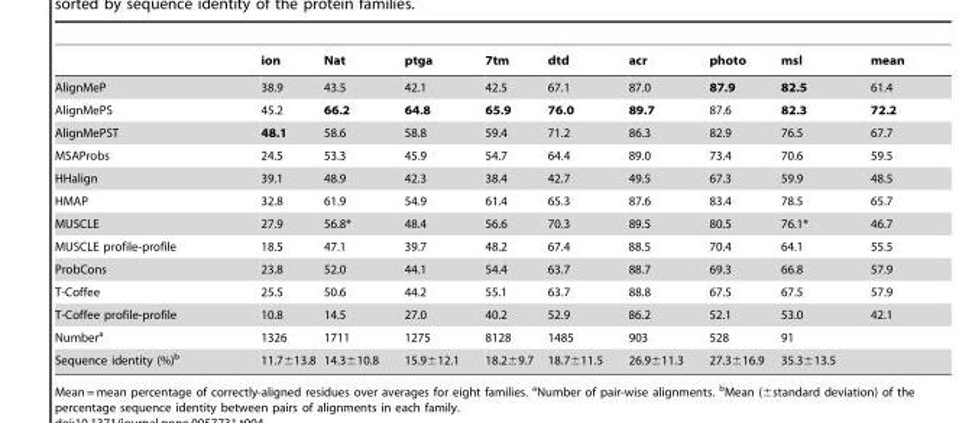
<table><thead><tr><td></td><td>ion</td><td>Nat</td><td>ptga</td><td>7tm</td><td>dtd</td><td>acr</td><td>photo</td><td>msl</td><td>mean</td></tr></thead><tbody><tr><td>AlignMeP</td><td>38.9</td><td>43.5</td><td>42.1</td><td>42.5</td><td>67.1</td><td>87.0</td><td>87.9</td><td>82.5</td><td>61.4</td></tr><tr><td>AlignMePS</td><td>45.2</td><td>66.2</td><td>64.8</td><td>65.9</td><td>76.0</td><td>89.7</td><td>87.6</td><td>82.3</td><td>72.2</td></tr><tr><td>AlignMePST</td><td>48.1</td><td>58.6</td><td>58.8</td><td>59.4</td><td>71.2</td><td>86.3</td><td>82.9</td><td>76.5</td><td>67.7</td></tr><tr><td>MSAProbs</td><td>24.5</td><td>53.3</td><td>45.9</td><td>54.7</td><td>64.4</td><td>89.0</td><td>73.4</td><td>70.6</td><td>59.5</td></tr><tr><td>HHalign</td><td>39.1</td><td>48.9</td><td>42.3</td><td>38.4</td><td>42.7</td><td>49.5</td><td>67.3</td><td>59.9</td><td>48.5</td></tr><tr><td>HMAP</td><td>32.8</td><td>61.9</td><td>54.9</td><td>61.4</td><td>65.3</td><td>87.6</td><td>83.4</td><td>78.5</td><td>65.7</td></tr><tr><td>MUSCLE</td><td>27.9</td><td>56.8*</td><td>48.4</td><td>56.6</td><td>70.3</td><td>89.5</td><td>80.5</td><td>76.1*</td><td>46.7</td></tr><tr><td>MUSCLE profile-profile</td><td>18.5</td><td>47.1</td><td>39.7</td><td>48.2</td><td>67.4</td><td>88.5</td><td>70.4</td><td>64.1</td><td>55.5</td></tr><tr><td>ProbCons</td><td>23.8</td><td>52.0</td><td>44.1</td><td>54.4</td><td>63.7</td><td>88.7</td><td>69.3</td><td>66.8</td><td>57.9</td></tr><tr><td>T-Coffee</td><td>25.5</td><td>50.6</td><td>44.2</td><td>55.1</td><td>63.7</td><td>88.8</td><td>67.5</td><td>67.5</td><td>57.9</td></tr><tr><td>T-Coffee profile-profile</td><td>10.8</td><td>14.5</td><td>27.0</td><td>40.2</td><td>52.9</td><td>86.2</td><td>52.1</td><td>53.0</td><td>42.1</td></tr><tr><td>Number<sup>a</sup></td><td>1326</td><td>1711</td><td>1275</td><td>8128</td><td>1485</td><td>903</td><td>528</td><td>91</td><td></td></tr><tr><td>Sequence identity (%)<sup>b</sup></td><td>11.7±13.8</td><td>14.3±10.8</td><td>15.9±12.1</td><td>18.2±9.7</td><td>18.7±11.5</td><td>26.9±11.3</td><td>27.3±16.9</td><td>35.3±13.5</td><td></td></tr></tbody></table>